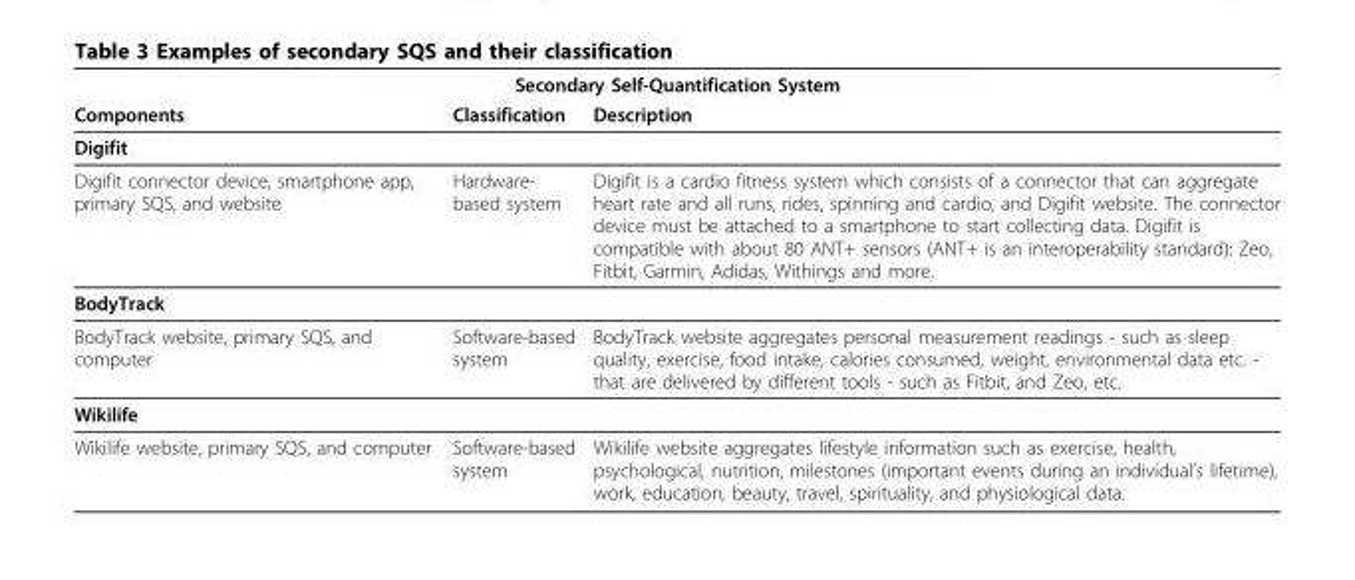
<table><thead><tr><td colspan="3">Secondary Self-Quantification System</td></tr><tr><td>Components</td><td>Classification</td><td>Description</td></tr></thead><tbody><tr><td colspan="3">Digifit</td></tr><tr><td>Digifit connector device, smartphone app, primary SQS, and website</td><td>Hardware- based system</td><td>Digifit is a cardio fitness system which consists of a connector that can aggregate heart rate and all runs, rides, spinning and cardio, and Digifit website. The connector device must be attached to a smartphone to start collecting data. Digifit is compatible with about 80 ANT+ sensors (ANT+ is an interoperability standard): Zeo, Fitbit, Garmin, Adidas, Withings and more.</td></tr><tr><td colspan="3">BodyTrack</td></tr><tr><td>BodyTrack website, primary SQS, and computer</td><td>Software-based system</td><td>BodyTrack website aggregates personal measurement readings - such as sleep quality, exercise, food intake, calories consumed, weight, environmental data etc. - that are delivered by different tools - such as Fitbit, and Zeo, etc.</td></tr><tr><td colspan="3">Wikilife</td></tr><tr><td>Wikilife website, primary SQS, and computer</td><td>Software-based system</td><td>Wikilife website aggregates lifestyle information such as exercise, health, psychological, nutrition, milestones (important events during an individual’s lifetime), work, education, beauty, travel, spirituality, and physiological data.</td></tr></tbody></table>